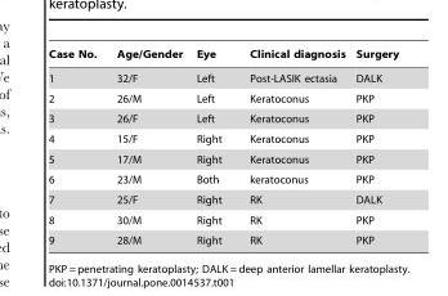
<table><thead><tr><td>Case No.</td><td>Age/Gender</td><td>Eye</td><td>Clinical diagnosis</td><td>Surgery</td></tr></thead><tbody><tr><td>1</td><td>32/F</td><td>Left</td><td>Post-LASIK ectasia</td><td>DALK</td></tr><tr><td>2</td><td>26/M</td><td>Left</td><td>Keratoconus</td><td>PKP</td></tr><tr><td>3</td><td>26/F</td><td>Left</td><td>Keratoconus</td><td>PKP</td></tr><tr><td>4</td><td>15/F</td><td>Right</td><td>Keratoconus</td><td>PKP</td></tr><tr><td>5</td><td>17/M</td><td>Right</td><td>Keratoconus</td><td>PKP</td></tr><tr><td>6</td><td>23/M</td><td>Both</td><td>keratoconus</td><td>PKP</td></tr><tr><td>7</td><td>25/F</td><td>Right</td><td>RK</td><td>DALK</td></tr><tr><td>8</td><td>30/M</td><td>Right</td><td>RK</td><td>PKP</td></tr><tr><td>9</td><td>28/M</td><td>Right</td><td>RK</td><td>PKP</td></tr></tbody></table>